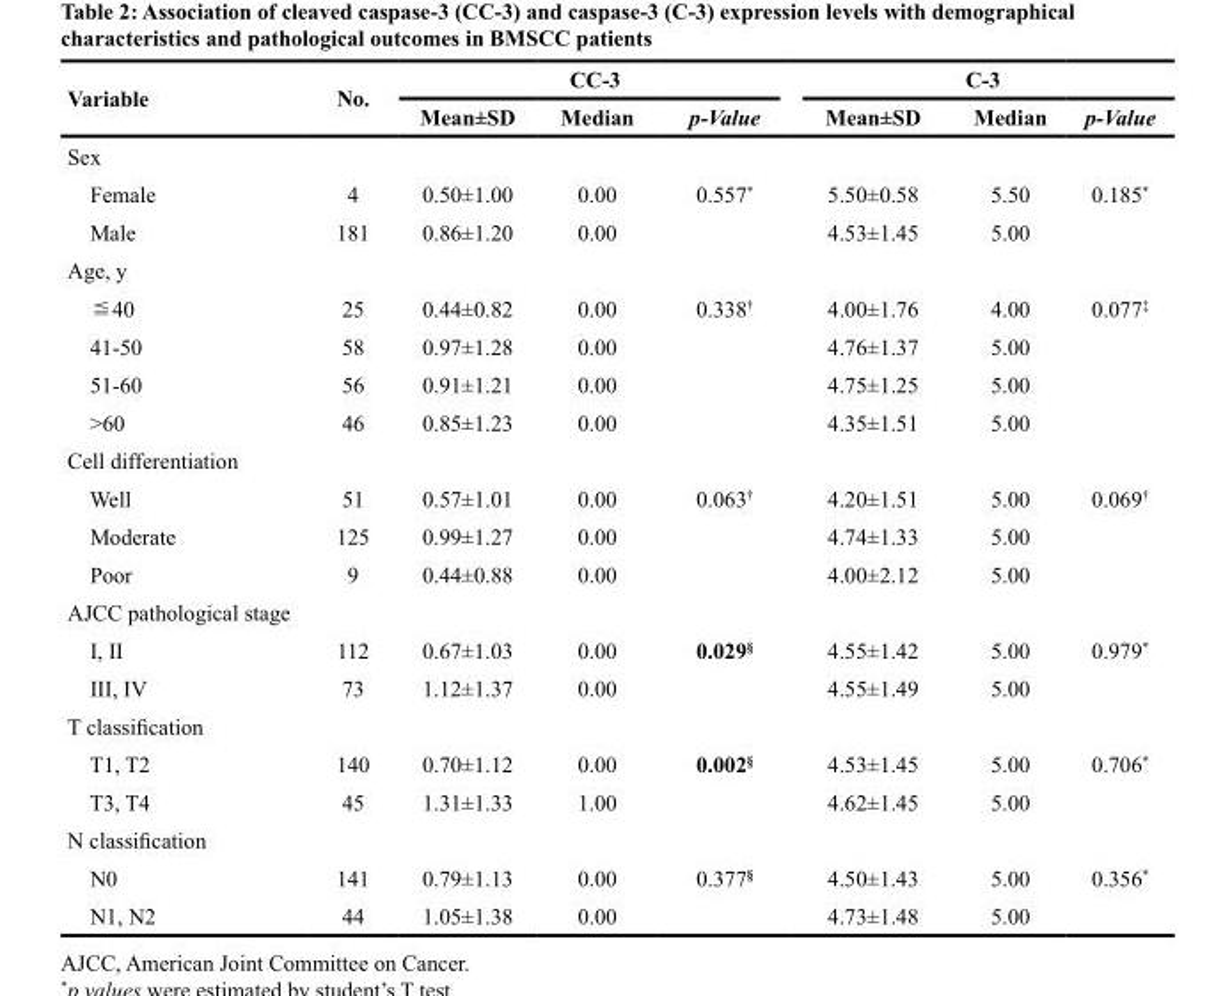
<table><thead><tr><td rowspan="2">Variable</td><td rowspan="2">No.</td><td colspan="3">CC-3</td><td colspan="3">C-3</td></tr><tr><td>Mean±SD</td><td>Median</td><td>p-Value</td><td>Mean±SD</td><td>Median</td><td>p-Value</td></tr></thead><tbody><tr><td colspan="8">Sex</td></tr><tr><td>Female</td><td>4</td><td>0.50±1.00</td><td>0.00</td><td>0.557*</td><td>5.50±0.58</td><td>5.50</td><td>0.185*</td></tr><tr><td>Male</td><td>181</td><td>0.86±1.20</td><td>0.00</td><td></td><td>4.53±1.45</td><td>5.00</td><td></td></tr><tr><td colspan="8">Age, y</td></tr><tr><td>≦40</td><td>25</td><td>0.44±0.82</td><td>0.00</td><td>0.338<sup>†</sup></td><td>4.00±1.76</td><td>4.00</td><td>0.077<sup>‡</sup></td></tr><tr><td>41-50</td><td>58</td><td>0.97±1.28</td><td>0.00</td><td></td><td>4.76±1.37</td><td>5.00</td><td></td></tr><tr><td>51-60</td><td>56</td><td>0.91±1.21</td><td>0.00</td><td></td><td>4.75±1.25</td><td>5.00</td><td></td></tr><tr><td>&gt;60</td><td>46</td><td>0.85±1.23</td><td>0.00</td><td></td><td>4.35±1.51</td><td>5.00</td><td></td></tr><tr><td colspan="8">Cell differentiation</td></tr><tr><td>Well</td><td>51</td><td>0.57±1.01</td><td>0.00</td><td>0.063<sup>†</sup></td><td>4.20±1.51</td><td>5.00</td><td>0.069<sup>†</sup></td></tr><tr><td>Moderate</td><td>125</td><td>0.99±1.27</td><td>0.00</td><td></td><td>4.74±1.33</td><td>5.00</td><td></td></tr><tr><td>Poor</td><td>9</td><td>0.44±0.88</td><td>0.00</td><td></td><td>4.00±2.12</td><td>5.00</td><td></td></tr><tr><td colspan="8">AJCC pathological stage</td></tr><tr><td>I, II</td><td>112</td><td>0.67±1.03</td><td>0.00</td><td>0.029<sup>§</sup></td><td>4.55±1.42</td><td>5.00</td><td>0.979*</td></tr><tr><td>III, IV</td><td>73</td><td>1.12±1.37</td><td>0.00</td><td></td><td>4.55±1.49</td><td>5.00</td><td></td></tr><tr><td colspan="8">T classification</td></tr><tr><td>T1, T2</td><td>140</td><td>0.70±1.12</td><td>0.00</td><td>0.002<sup>§</sup></td><td>4.53±1.45</td><td>5.00</td><td>0.706*</td></tr><tr><td>T3, T4</td><td>45</td><td>1.31±1.33</td><td>1.00</td><td></td><td>4.62±1.45</td><td>5.00</td><td></td></tr><tr><td colspan="8">N classification</td></tr><tr><td>N0</td><td>141</td><td>0.79±1.13</td><td>0.00</td><td>0.377<sup>§</sup></td><td>4.50±1.43</td><td>5.00</td><td>0.356*</td></tr><tr><td>N1, N2</td><td>44</td><td>1.05±1.38</td><td>0.00</td><td></td><td>4.73±1.48</td><td>5.00</td><td></td></tr></tbody></table>